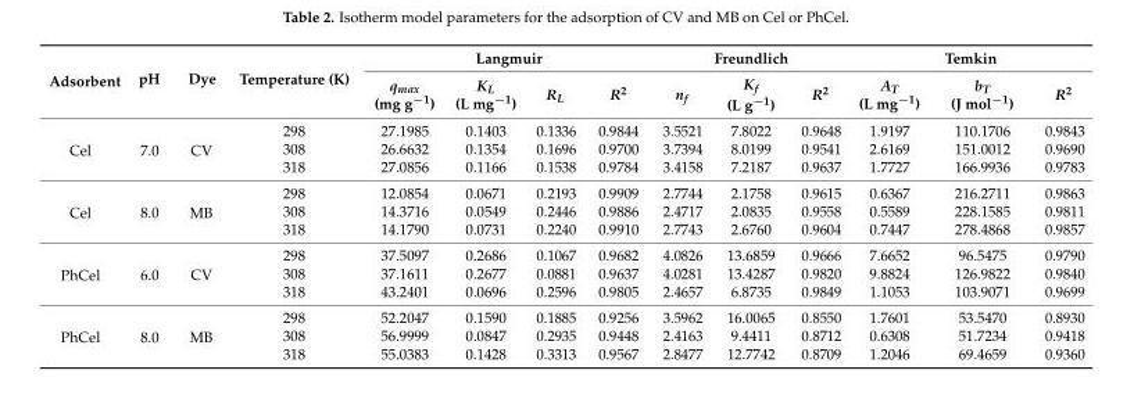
<table><thead><tr><td rowspan="2">Adsorbent</td><td rowspan="2">pH</td><td rowspan="2">Dye</td><td rowspan="2">Temperature (K)</td><td colspan="4">Langmuir</td><td colspan="3">Freundlich</td><td colspan="3">Temkin</td></tr><tr><td>q<sub>max</sub> (mg g<sup>−1</sup>)</td><td>K<sub>L</sub> (L mg<sup>−1</sup>)</td><td>R<sub>L</sub></td><td>R<sup>2</sup></td><td>n<sub>f</sub></td><td>K<sub>f</sub> (L g<sup>−1</sup>)</td><td>R<sup>2</sup></td><td>A<sub>T</sub> (L mg<sup>−1</sup>)</td><td>b<sub>T</sub> (J mol<sup>−1</sup>)</td><td>R<sup>2</sup></td></tr></thead><tbody><tr><td rowspan="3">Cel</td><td rowspan="3">7.0</td><td rowspan="3">CV</td><td>298</td><td>27.1985</td><td>0.1403</td><td>0.1336</td><td>0.9844</td><td>3.5521</td><td>7.8022</td><td>0.9648</td><td>1.9197</td><td>110.1706</td><td>0.9843</td></tr><tr><td>308</td><td>26.6632</td><td>0.1354</td><td>0.1696</td><td>0.9700</td><td>3.7394</td><td>8.0199</td><td>0.9541</td><td>2.6169</td><td>151.0012</td><td>0.9690</td></tr><tr><td>318</td><td>27.0856</td><td>0.1166</td><td>0.1538</td><td>0.9784</td><td>3.4158</td><td>7.2187</td><td>0.9637</td><td>1.7727</td><td>166.9936</td><td>0.9783</td></tr><tr><td rowspan="3">Cel</td><td rowspan="3">8.0</td><td rowspan="3">MB</td><td>298</td><td>12.0854</td><td>0.0671</td><td>0.2193</td><td>0.9909</td><td>2.7744</td><td>2.1758</td><td>0.9615</td><td>0.6367</td><td>216.2711</td><td>0.9863</td></tr><tr><td>308</td><td>14.3716</td><td>0.0549</td><td>0.2446</td><td>0.9886</td><td>2.4717</td><td>2.0835</td><td>0.9558</td><td>0.5589</td><td>228.1585</td><td>0.9811</td></tr><tr><td>318</td><td>14.1790</td><td>0.0731</td><td>0.2240</td><td>0.9910</td><td>2.7743</td><td>2.6760</td><td>0.9604</td><td>0.7447</td><td>278.4868</td><td>0.9857</td></tr><tr><td rowspan="3">PhCel</td><td rowspan="3">6.0</td><td rowspan="3">CV</td><td>298</td><td>37.5097</td><td>0.2686</td><td>0.1067</td><td>0.9682</td><td>4.0826</td><td>13.6859</td><td>0.9666</td><td>7.6652</td><td>96.5475</td><td>0.9790</td></tr><tr><td>308</td><td>37.1611</td><td>0.2677</td><td>0.0881</td><td>0.9637</td><td>4.0281</td><td>13.4287</td><td>0.9820</td><td>9.8824</td><td>126.9822</td><td>0.9840</td></tr><tr><td>318</td><td>43.2401</td><td>0.0696</td><td>0.2596</td><td>0.9805</td><td>2.4657</td><td>6.8735</td><td>0.9849</td><td>1.1053</td><td>103.9071</td><td>0.9699</td></tr><tr><td rowspan="3">PhCel</td><td rowspan="3">8.0</td><td rowspan="3">MB</td><td>298</td><td>52.2047</td><td>0.1590</td><td>0.1885</td><td>0.9256</td><td>3.5962</td><td>16.0065</td><td>0.8550</td><td>1.7601</td><td>53.5470</td><td>0.8930</td></tr><tr><td>308</td><td>56.9999</td><td>0.0847</td><td>0.2935</td><td>0.9448</td><td>2.4163</td><td>9.4411</td><td>0.8712</td><td>0.6308</td><td>51.7234</td><td>0.9418</td></tr><tr><td>318</td><td>55.0383</td><td>0.1428</td><td>0.3313</td><td>0.9567</td><td>2.8477</td><td>12.7742</td><td>0.8709</td><td>1.2046</td><td>69.4659</td><td>0.9360</td></tr></tbody></table>